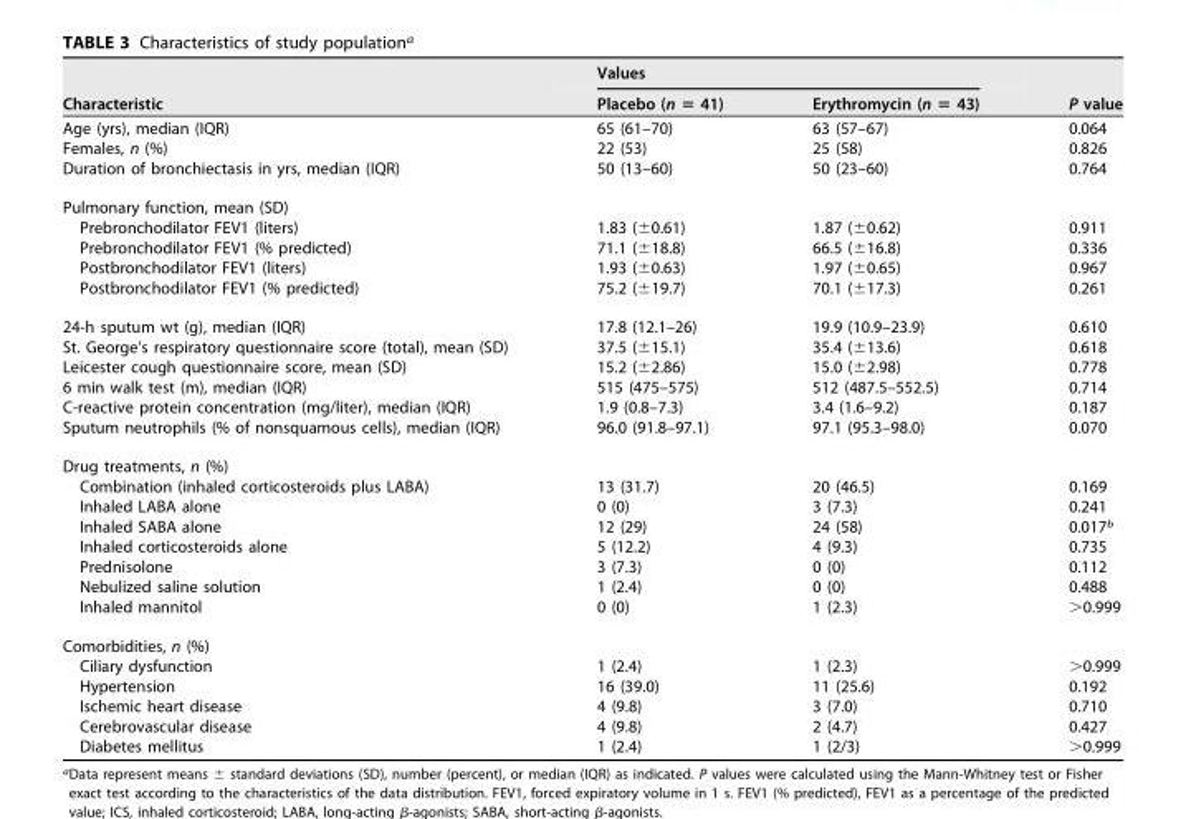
<table><thead><tr><td rowspan="2">Characteristic</td><td colspan="2">Values</td><td rowspan="2">P value</td></tr><tr><td>Placebo (n = 41)</td><td>Erythromycin (n = 43)</td></tr></thead><tbody><tr><td>Age (yrs), median (IQR)</td><td>65 (61–70)</td><td>63 (57–67)</td><td>0.064</td></tr><tr><td>Females, n (%)</td><td>22 (53)</td><td>25 (58)</td><td>0.826</td></tr><tr><td>Duration of bronchiectasis in yrs, median (IQR)</td><td>50 (13–60)</td><td>50 (23–60)</td><td>0.764</td></tr><tr><td colspan="4">Pulmonary function, mean (SD)</td></tr><tr><td>Prebronchodilator FEV1 (liters)</td><td>1.83 (±0.61)</td><td>1.87 (±0.62)</td><td>0.911</td></tr><tr><td>Prebronchodilator FEV1 (% predicted)</td><td>71.1 (±18.8)</td><td>66.5 (±16.8)</td><td>0.336</td></tr><tr><td>Postbronchodilator FEV1 (liters)</td><td>1.93 (±0.63)</td><td>1.97 (±0.65)</td><td>0.967</td></tr><tr><td>Postbronchodilator FEV1 (% predicted)</td><td>75.2 (±19.7)</td><td>70.1 (±17.3)</td><td>0.261</td></tr><tr><td>24-h sputum wt (g), median (IQR)</td><td>17.8 (12.1–26)</td><td>19.9 (10.9–23.9)</td><td>0.610</td></tr><tr><td>St. George’s respiratory questionnaire score (total), mean (SD)</td><td>37.5 (±15.1)</td><td>35.4 (±13.6)</td><td>0.618</td></tr><tr><td>Leicester cough questionnaire score, mean (SD)</td><td>15.2 (±2.86)</td><td>15.0 (±2.98)</td><td>0.778</td></tr><tr><td>6 min walk test (m), median (IQR)</td><td>515 (475–575)</td><td>512 (487.5–552.5)</td><td>0.714</td></tr><tr><td>C-reactive protein concentration (mg/liter), median (IQR)</td><td>1.9 (0.8–7.3)</td><td>3.4 (1.6–9.2)</td><td>0.187</td></tr><tr><td>Sputum neutrophils (% of nonsquamous cells), median (IQR)</td><td>96.0 (91.8–97.1)</td><td>97.1 (95.3–98.0)</td><td>0.070</td></tr><tr><td colspan="4">Drug treatments, n (%)</td></tr><tr><td>Combination (inhaled corticosteroids plus LABA)</td><td>13 (31.7)</td><td>20 (46.5)</td><td>0.169</td></tr><tr><td>Inhaled LABA alone</td><td>0 (0)</td><td>3 (7.3)</td><td>0.241</td></tr><tr><td>Inhaled SABA alone</td><td>12 (29)</td><td>24 (58)</td><td>0.017<sup>b</sup></td></tr><tr><td>Inhaled corticosteroids alone</td><td>5 (12.2)</td><td>4 (9.3)</td><td>0.735</td></tr><tr><td>Prednisolone</td><td>3 (7.3)</td><td>0 (0)</td><td>0.112</td></tr><tr><td>Nebulized saline solution</td><td>1 (2.4)</td><td>0 (0)</td><td>0.488</td></tr><tr><td>Inhaled mannitol</td><td>0 (0)</td><td>1 (2.3)</td><td>&gt;0.999</td></tr><tr><td colspan="4">Comorbidities, n (%)</td></tr><tr><td>Ciliary dysfunction</td><td>1 (2.4)</td><td>1 (2.3)</td><td>&gt;0.999</td></tr><tr><td>Hypertension</td><td>16 (39.0)</td><td>11 (25.6)</td><td>0.192</td></tr><tr><td>Ischemic heart disease</td><td>4 (9.8)</td><td>3 (7.0)</td><td>0.710</td></tr><tr><td>Cerebrovascular disease</td><td>4 (9.8)</td><td>2 (4.7)</td><td>0.427</td></tr><tr><td>Diabetes mellitus</td><td>1 (2.4)</td><td>1 (2/3)</td><td>&gt;0.999</td></tr></tbody></table>